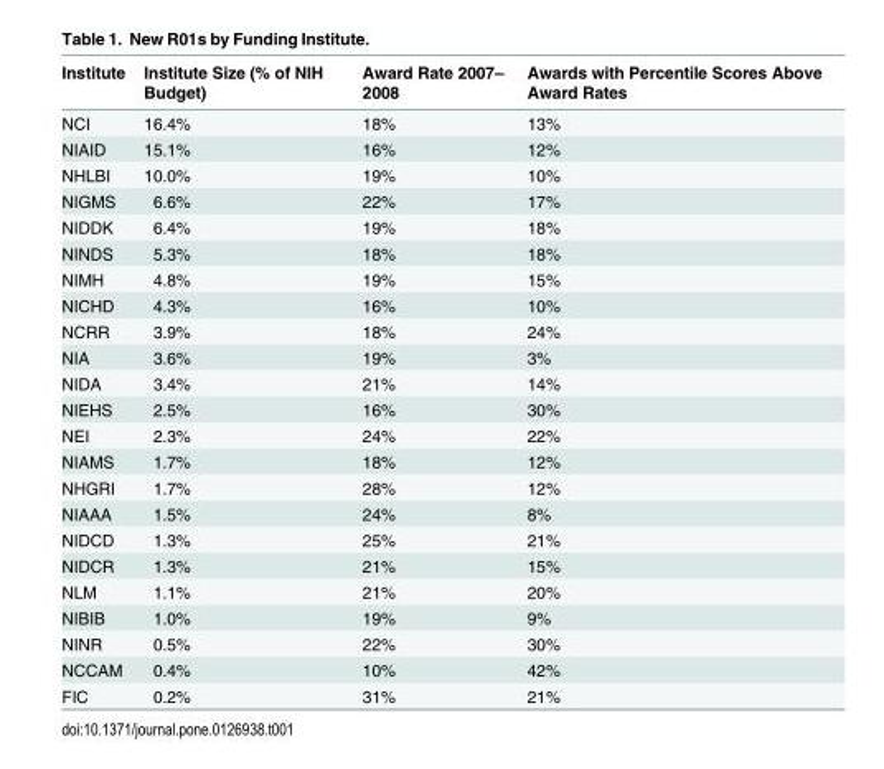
<table><thead><tr><td>Institute</td><td>Institute Size (% of NIH Budget)</td><td>Award Rate 2007– 2008</td><td>Awards with Percentile Scores Above Award Rates</td></tr></thead><tbody><tr><td>NCI</td><td>16.4%</td><td>18%</td><td>13%</td></tr><tr><td>NIAID</td><td>15.1%</td><td>16%</td><td>12%</td></tr><tr><td>NHLBI</td><td>10.0%</td><td>19%</td><td>10%</td></tr><tr><td>NIGMS</td><td>6.6%</td><td>22%</td><td>17%</td></tr><tr><td>NIDDK</td><td>6.4%</td><td>19%</td><td>18%</td></tr><tr><td>NINDS</td><td>5.3%</td><td>18%</td><td>18%</td></tr><tr><td>NIMH</td><td>4.8%</td><td>19%</td><td>15%</td></tr><tr><td>NICHD</td><td>4.3%</td><td>16%</td><td>10%</td></tr><tr><td>NCRR</td><td>3.9%</td><td>18%</td><td>24%</td></tr><tr><td>NIA</td><td>3.6%</td><td>19%</td><td>3%</td></tr><tr><td>NIDA</td><td>3.4%</td><td>21%</td><td>14%</td></tr><tr><td>NIEHS</td><td>2.5%</td><td>16%</td><td>30%</td></tr><tr><td>NEI</td><td>2.3%</td><td>24%</td><td>22%</td></tr><tr><td>NIAMS</td><td>1.7%</td><td>18%</td><td>12%</td></tr><tr><td>NHGRI</td><td>1.7%</td><td>28%</td><td>12%</td></tr><tr><td>NIAAA</td><td>1.5%</td><td>24%</td><td>8%</td></tr><tr><td>NIDCD</td><td>1.3%</td><td>25%</td><td>21%</td></tr><tr><td>NIDCR</td><td>1.3%</td><td>21%</td><td>15%</td></tr><tr><td>NLM</td><td>1.1%</td><td>21%</td><td>20%</td></tr><tr><td>NIBIB</td><td>1.0%</td><td>19%</td><td>9%</td></tr><tr><td>NINR</td><td>0.5%</td><td>22%</td><td>30%</td></tr><tr><td>NCCAM</td><td>0.4%</td><td>10%</td><td>42%</td></tr><tr><td>FIC</td><td>0.2%</td><td>31%</td><td>21%</td></tr></tbody></table>